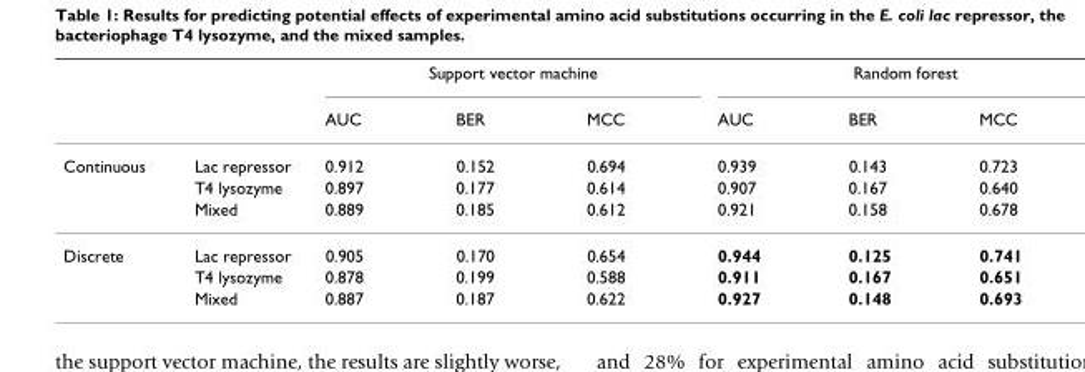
<table><thead><tr><td rowspan="2"></td><td rowspan="2"></td><td colspan="3">Support vector machine</td><td colspan="3">Random forest</td></tr><tr><td>AUC</td><td>BER</td><td>MCC</td><td>AUC</td><td>BER</td><td>MCC</td></tr></thead><tbody><tr><td rowspan="3">Continuous</td><td>Lac repressor</td><td>0.912</td><td>0.152</td><td>0.694</td><td>0.939</td><td>0.143</td><td>0.723</td></tr><tr><td>T4 lysozyme</td><td>0.897</td><td>0.177</td><td>0.614</td><td>0.907</td><td>0.167</td><td>0.640</td></tr><tr><td>Mixed</td><td>0.889</td><td>0.185</td><td>0.612</td><td>0.921</td><td>0.158</td><td>0.678</td></tr><tr><td rowspan="3">Discrete</td><td>Lac repressor</td><td>0.905</td><td>0.170</td><td>0.654</td><td>0.944</td><td>0.125</td><td>0.741</td></tr><tr><td>T4 lysozyme</td><td>0.878</td><td>0.199</td><td>0.588</td><td>0.911</td><td>0.167</td><td>0.651</td></tr><tr><td>Mixed</td><td>0.887</td><td>0.187</td><td>0.622</td><td>0.927</td><td>0.148</td><td>0.693</td></tr></tbody></table>